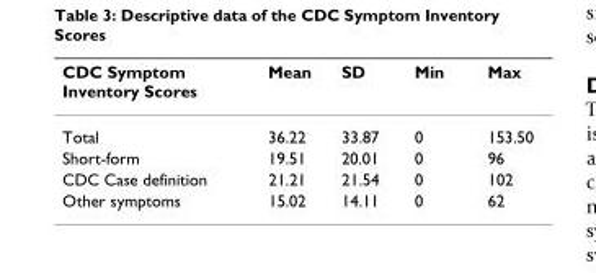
<table><thead><tr><td>CDC Symptom Inventory Scores</td><td>Mean</td><td>SD</td><td>Min</td><td>Max</td></tr></thead><tbody><tr><td>Total</td><td>36.22</td><td>33.87</td><td>0</td><td>153.50</td></tr><tr><td>Short-form</td><td>19.51</td><td>20.01</td><td>0</td><td>96</td></tr><tr><td>CDC Case definition</td><td>21.21</td><td>21.54</td><td>0</td><td>102</td></tr><tr><td>Other symptoms</td><td>15.02</td><td>14.11</td><td>0</td><td>62</td></tr></tbody></table>